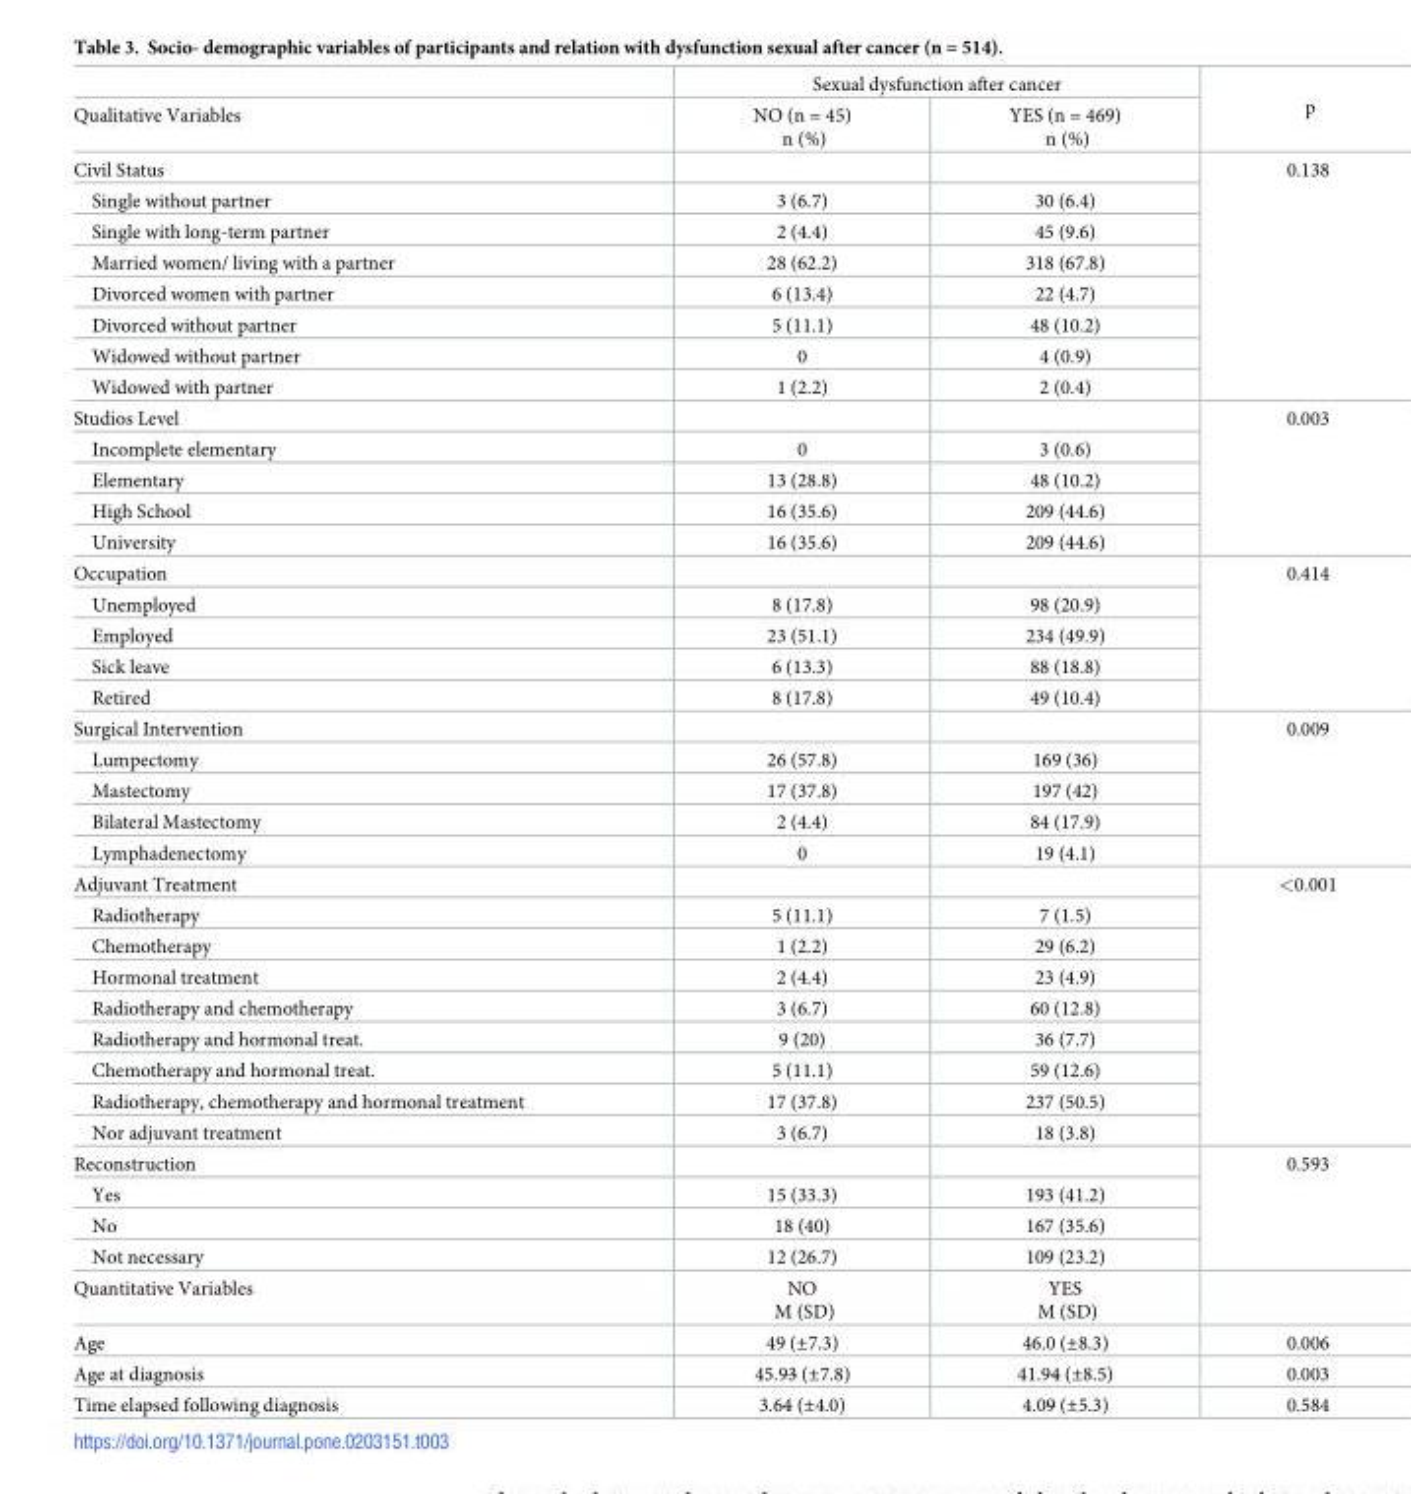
<table><thead><tr><td rowspan="2">Qualitative Variables</td><td colspan="2">Sexual dysfunction after cancer</td><td rowspan="2">p</td></tr><tr><td>NO (n = 45) n (%)</td><td>YES (n = 469) n (%)</td></tr></thead><tbody><tr><td colspan="3">Civil Status</td><td rowspan="8">0.138</td></tr><tr><td>Single without partner</td><td>3 (6.7)</td><td>30 (6.4)</td></tr><tr><td>Single with long-term partner</td><td>2 (4.4)</td><td>45 (9.6)</td></tr><tr><td>Married women/ living with a partner</td><td>28 (62.2)</td><td>318 (67.8)</td></tr><tr><td>Divorced women with partner</td><td>6 (13.4)</td><td>22 (4.7)</td></tr><tr><td>Divorced without partner</td><td>5 (11.1)</td><td>48 (10.2)</td></tr><tr><td>Widowed without partner</td><td>0</td><td>4 (0.9)</td></tr><tr><td>Widowed with partner</td><td>1 (2.2)</td><td>2 (0.4)</td></tr><tr><td colspan="3">Studios Level</td><td rowspan="5">0.003</td></tr><tr><td>Incomplete elementary</td><td>0</td><td>3 (0.6)</td></tr><tr><td>Elementary</td><td>13 (28.8)</td><td>48 (10.2)</td></tr><tr><td>High School</td><td>16 (35.6)</td><td>209 (44.6)</td></tr><tr><td>University</td><td>16 (35.6)</td><td>209 (44.6)</td></tr><tr><td colspan="3">Occupation</td><td rowspan="5">0.414</td></tr><tr><td>Unemployed</td><td>8 (17.8)</td><td>98 (20.9)</td></tr><tr><td>Employed</td><td>23 (51.1)</td><td>234 (49.9)</td></tr><tr><td>Sick leave</td><td>6 (13.3)</td><td>88 (18.8)</td></tr><tr><td>Retired</td><td>8 (17.8)</td><td>49 (10.4)</td></tr><tr><td colspan="3">Surgical Intervention</td><td rowspan="5">0.009</td></tr><tr><td>Lumpectomy</td><td>26 (57.8)</td><td>169 (36)</td></tr><tr><td>Mastectomy</td><td>17 (37.8)</td><td>197 (42)</td></tr><tr><td>Bilateral Mastectomy</td><td>2 (4.4)</td><td>84 (17.9)</td></tr><tr><td>Lymphadenectomy</td><td>0</td><td>19 (4.1)</td></tr><tr><td colspan="3">Adjuvant Treatment</td><td rowspan="9">&lt;0.001</td></tr><tr><td>Radiotherapy</td><td>5 (11.1)</td><td>7 (1.5)</td></tr><tr><td>Chemotherapy</td><td>1 (2.2)</td><td>29 (6.2)</td></tr><tr><td>Hormonal treatment</td><td>2 (4.4)</td><td>23 (4.9)</td></tr><tr><td>Radiotherapy and chemotherapy</td><td>3 (6.7)</td><td>60 (12.8)</td></tr><tr><td>Radiotherapy and hormonal treat.</td><td>9 (20)</td><td>36 (7.7)</td></tr><tr><td>Chemotherapy and hormonal treat.</td><td>5 (11.1)</td><td>59 (12.6)</td></tr><tr><td>Radiotherapy, chemotherapy and hormonal treatment</td><td>17 (37.8)</td><td>237 (50.5)</td></tr><tr><td>Nor adjuvant treatment</td><td>3 (6.7)</td><td>18 (3.8)</td></tr><tr><td colspan="3">Reconstruction</td><td rowspan="4">0.593</td></tr><tr><td>Yes</td><td>15 (33.3)</td><td>193 (41.2)</td></tr><tr><td>No</td><td>18 (40)</td><td>167 (35.6)</td></tr><tr><td>Not necessary</td><td>12 (26.7)</td><td>109 (23.2)</td></tr><tr><td>Quantitative Variables</td><td>NO M (SD)</td><td>YES M (SD)</td><td></td></tr><tr><td>Age</td><td>49 (±7.3)</td><td>46.0 (±8.3)</td><td>0.006</td></tr><tr><td>Age at diagnosis</td><td>45.93 (±7.8)</td><td>41.94 (±8.5)</td><td>0.003</td></tr><tr><td>Time elapsed following diagnosis</td><td>3.64 (±4.0)</td><td>4.09 (±5.3)</td><td>0.584</td></tr></tbody></table>